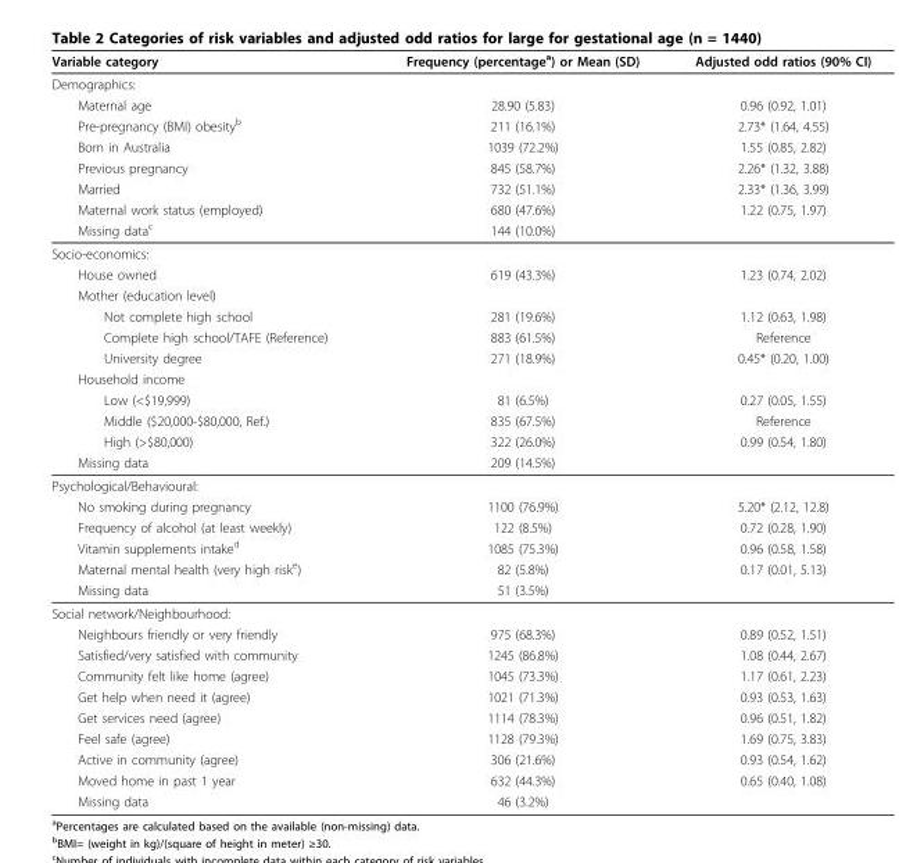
<table><thead><tr><td>Variable category</td><td>Frequency (percentage<sup>a</sup>) or Mean (SD)</td><td>Adjusted odd ratios (90% CI)</td></tr></thead><tbody><tr><td colspan="3">Demographics:</td></tr><tr><td>Maternal age</td><td>28.90 (5.83)</td><td>0.96 (0.92, 1.01)</td></tr><tr><td>Pre-pregnancy (BMI) obesity<sup>b</sup></td><td>211 (16.1%)</td><td>2.73* (1.64, 4.55)</td></tr><tr><td>Born in Australia</td><td>1039 (72.2%)</td><td>1.55 (0.85, 2.82)</td></tr><tr><td>Previous pregnancy</td><td>845 (58.7%)</td><td>2.26* (1.32, 3.88)</td></tr><tr><td>Married</td><td>732 (51.1%)</td><td>2.33* (1.36, 3.99)</td></tr><tr><td>Maternal work status (employed)</td><td>680 (47.6%)</td><td>1.22 (0.75, 1.97)</td></tr><tr><td>Missing data<sup>c</sup></td><td>144 (10.0%)</td><td></td></tr><tr><td colspan="3">Socio-economics:</td></tr><tr><td>House owned</td><td>619 (43.3%)</td><td>1.23 (0.74, 2.02)</td></tr><tr><td colspan="3">Mother (education level)</td></tr><tr><td>Not complete high school</td><td>281 (19.6%)</td><td>1.12 (0.63, 1.98)</td></tr><tr><td>Complete high school/TAFE (Reference)</td><td>883 (61.5%)</td><td>Reference</td></tr><tr><td>University degree</td><td>271 (18.9%)</td><td>0.45* (0.20, 1.00)</td></tr><tr><td colspan="3">Household income</td></tr><tr><td>Low (&lt;$19,999)</td><td>81 (6.5%)</td><td>0.27 (0.05, 1.55)</td></tr><tr><td>Middle ($20,000-$80,000, Ref.)</td><td>835 (67.5%)</td><td>Reference</td></tr><tr><td>High (&gt;$80,000)</td><td>322 (26.0%)</td><td>0.99 (0.54, 1.80)</td></tr><tr><td>Missing data</td><td>209 (14.5%)</td><td></td></tr><tr><td colspan="3">Psychological/Behavioural:</td></tr><tr><td>No smoking during pregnancy</td><td>1100 (76.9%)</td><td>5.20* (2.12, 12.8)</td></tr><tr><td>Frequency of alcohol (at least weekly)</td><td>122 (8.5%)</td><td>0.72 (0.28, 1.90)</td></tr><tr><td>Vitamin supplements intake<sup>d</sup></td><td>1085 (75.3%)</td><td>0.96 (0.58, 1.58)</td></tr><tr><td>Maternal mental health (very high risk<sup>e</sup>)</td><td>82 (5.8%)</td><td>0.17 (0.01, 5.13)</td></tr><tr><td>Missing data</td><td>51 (3.5%)</td><td></td></tr><tr><td colspan="3">Social network/Neighbourhood:</td></tr><tr><td>Neighbours friendly or very friendly</td><td>975 (68.3%)</td><td>0.89 (0.52, 1.51)</td></tr><tr><td>Satisfied/very satisfied with community</td><td>1245 (86.8%)</td><td>1.08 (0.44, 2.67)</td></tr><tr><td>Community felt like home (agree)</td><td>1045 (73.3%)</td><td>1.17 (0.61, 2.23)</td></tr><tr><td>Get help when need it (agree)</td><td>1021 (71.3%)</td><td>0.93 (0.53, 1.63)</td></tr><tr><td>Get services need (agree)</td><td>1114 (78.3%)</td><td>0.96 (0.51, 1.82)</td></tr><tr><td>Feel safe (agree)</td><td>1128 (79.3%)</td><td>1.69 (0.75, 3.83)</td></tr><tr><td>Active in community (agree)</td><td>306 (21.6%)</td><td>0.93 (0.54, 1.62)</td></tr><tr><td>Moved home in past 1 year</td><td>632 (44.3%)</td><td>0.65 (0.40, 1.08)</td></tr><tr><td>Missing data</td><td>46 (3.2%)</td><td></td></tr></tbody></table>